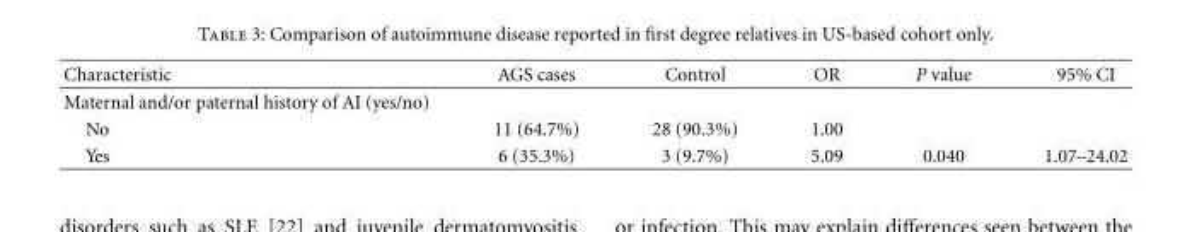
<table><thead><tr><td>Characteristic</td><td>AGS cases</td><td>Control</td><td>OR</td><td>P value</td><td>95% CI</td></tr></thead><tbody><tr><td colspan="6">Maternal and/or paternal history of AI (yes/no)</td></tr><tr><td>No</td><td>11 (64.7%)</td><td>28 (90.3%)</td><td>1.00</td><td></td><td></td></tr><tr><td>Yes</td><td>6 (35.3%)</td><td>3 (9.7%)</td><td>5.09</td><td>0.040</td><td>1.07–24.02</td></tr></tbody></table>